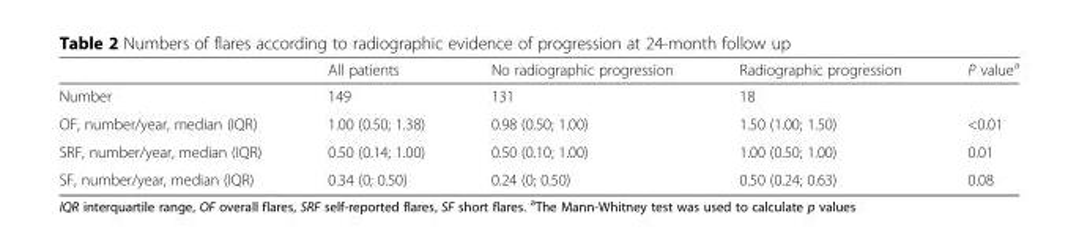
<table><thead><tr><td></td><td>All patients</td><td>No radiographic progression</td><td>Radiographic progression</td><td>P value<sup>a</sup></td></tr></thead><tbody><tr><td>Number</td><td>149</td><td>131</td><td>18</td><td></td></tr><tr><td>OF, number/year, median (IQR)</td><td>1.00 (0.50; 1.38)</td><td>0.98 (0.50; 1.00)</td><td>1.50 (1.00; 1.50)</td><td>&lt;0.01</td></tr><tr><td>SRF, number/year, median (IQR)</td><td>0.50 (0.14; 1.00)</td><td>0.50 (0.10; 1.00)</td><td>1.00 (0.50; 1.00)</td><td>0.01</td></tr><tr><td>SF, number/year, median (IQR)</td><td>0.34 (0; 0.50)</td><td>0.24 (0; 0.50)</td><td>0.50 (0.24; 0.63)</td><td>0.08</td></tr></tbody></table>